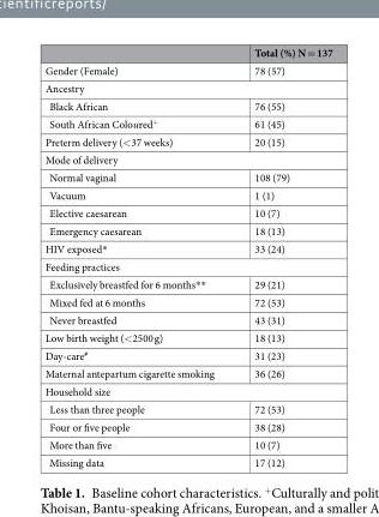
<table><thead><tr><td></td><td>Total (%) N = 137</td></tr></thead><tbody><tr><td>Gender (Female)</td><td>78 (57)</td></tr><tr><td colspan="2">Ancestry</td></tr><tr><td>Black African</td><td>76 (55)</td></tr><tr><td>South African Coloured<sup>+</sup></td><td>61 (45)</td></tr><tr><td>Preterm delivery (&lt;37 weeks)</td><td>20 (15)</td></tr><tr><td colspan="2">Mode of delivery</td></tr><tr><td>Normal vaginal</td><td>108 (79)</td></tr><tr><td>Vacuum</td><td>1 (1)</td></tr><tr><td>Elective caesarean</td><td>10 (7)</td></tr><tr><td>Emergency caesarean</td><td>18 (13)</td></tr><tr><td>HIV exposed*</td><td>33 (24)</td></tr><tr><td colspan="2">Feeding practices</td></tr><tr><td>Exclusively breastfed for 6 months**</td><td>29 (21)</td></tr><tr><td>Mixed fed at 6 months</td><td>72 (53)</td></tr><tr><td>Never breastfed</td><td>43 (31)</td></tr><tr><td>Low birth weight (&lt;2500 g)</td><td>18 (13)</td></tr><tr><td>Day-care<sup>#</sup></td><td>31 (23)</td></tr><tr><td>Maternal antepartum cigarette smoking</td><td>36 (26)</td></tr><tr><td colspan="2">Household size</td></tr><tr><td>Less than three people</td><td>72 (53)</td></tr><tr><td>Four or five people</td><td>38 (28)</td></tr><tr><td>More than five</td><td>10 (7)</td></tr><tr><td>Missing data</td><td>17 (12)</td></tr></tbody></table>